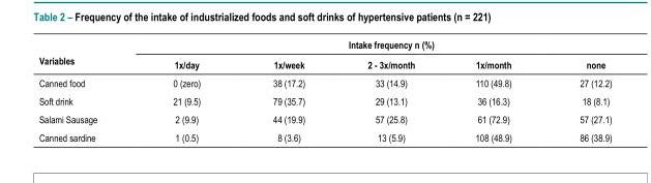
<table><thead><tr><td rowspan="2">Variables</td><td colspan="5">Intake frequency n (%)</td></tr><tr><td>1x/day</td><td>1x/week</td><td>2 - 3x/month</td><td>1x/month</td><td>none</td></tr></thead><tbody><tr><td>Canned food</td><td>0 (zero)</td><td>38 (17.2)</td><td>33 (14.9)</td><td>110 (49.8)</td><td>27 (12.2)</td></tr><tr><td>Soft drink</td><td>21 (9.5)</td><td>79 (35.7)</td><td>29 (13.1)</td><td>36 (16.3)</td><td>18 (8.1)</td></tr><tr><td>Salami Sausage</td><td>2 (9.9)</td><td>44 (19.9)</td><td>57 (25.8)</td><td>61 (72.9)</td><td>57 (27.1)</td></tr><tr><td>Canned sardine</td><td>1 (0.5)</td><td>8 (3.6)</td><td>13 (5.9)</td><td>108 (48.9)</td><td>86 (38.9)</td></tr></tbody></table>